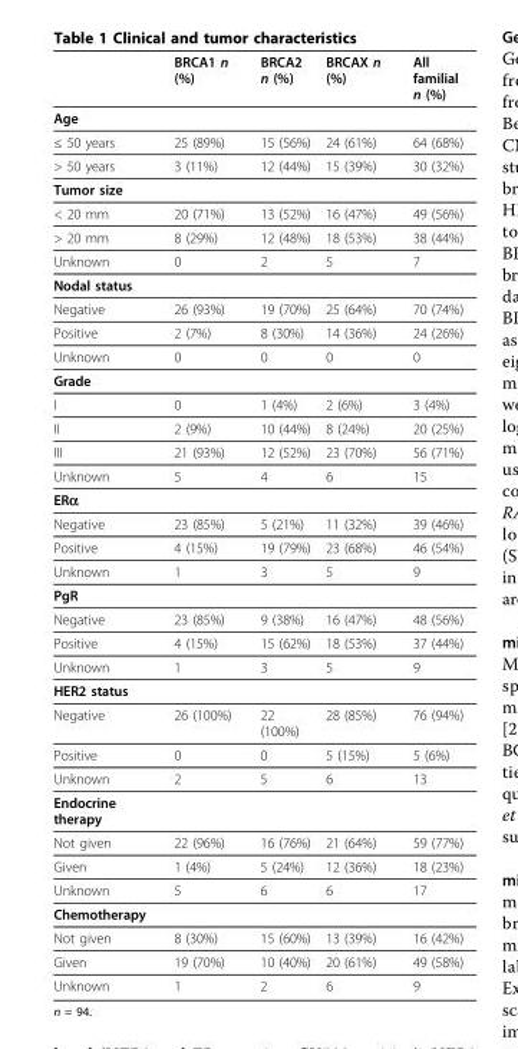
<table><thead><tr><td></td><td>BRCA1 n (%)</td><td>BRCA2 n (%)</td><td>BRCAX n (%)</td><td>All familial n (%)</td></tr></thead><tbody><tr><td colspan="5">Age</td></tr><tr><td>≤ 50 years</td><td>25 (89%)</td><td>15 (56%)</td><td>24 (61%)</td><td>64 (68%)</td></tr><tr><td>&gt; 50 years</td><td>3 (11%)</td><td>12 (44%)</td><td>15 (39%)</td><td>30 (32%)</td></tr><tr><td colspan="5">Tumor size</td></tr><tr><td>&lt; 20 mm</td><td>20 (71%)</td><td>13 (52%)</td><td>16 (47%)</td><td>49 (56%)</td></tr><tr><td>&gt; 20 mm</td><td>8 (29%)</td><td>12 (48%)</td><td>18 (53%)</td><td>38 (44%)</td></tr><tr><td>Unknown</td><td>0</td><td>2</td><td>5</td><td>7</td></tr><tr><td colspan="5">Nodal status</td></tr><tr><td>Negative</td><td>26 (93%)</td><td>19 (70%)</td><td>25 (64%)</td><td>70 (74%)</td></tr><tr><td>Positive</td><td>2 (7%)</td><td>8 (30%)</td><td>14 (36%)</td><td>24 (26%)</td></tr><tr><td>Unknown</td><td>0</td><td>0</td><td>0</td><td>0</td></tr><tr><td colspan="5">Grade</td></tr><tr><td>I</td><td>0</td><td>1 (4%)</td><td>2 (6%)</td><td>3 (4%)</td></tr><tr><td>II</td><td>2 (9%)</td><td>10 (44%)</td><td>8 (24%)</td><td>20 (25%)</td></tr><tr><td>III</td><td>21 (93%)</td><td>12 (52%)</td><td>23 (70%)</td><td>56 (71%)</td></tr><tr><td>Unknown</td><td>5</td><td>4</td><td>6</td><td>15</td></tr><tr><td colspan="5">ERα</td></tr><tr><td>Negative</td><td>23 (85%)</td><td>5 (21%)</td><td>11 (32%)</td><td>39 (46%)</td></tr><tr><td>Positive</td><td>4 (15%)</td><td>19 (79%)</td><td>23 (68%)</td><td>46 (54%)</td></tr><tr><td>Unknown</td><td>1</td><td>3</td><td>5</td><td>9</td></tr><tr><td colspan="5">PgR</td></tr><tr><td>Negative</td><td>23 (85%)</td><td>9 (38%)</td><td>16 (47%)</td><td>48 (56%)</td></tr><tr><td>Positive</td><td>4 (15%)</td><td>15 (62%)</td><td>18 (53%)</td><td>37 (44%)</td></tr><tr><td>Unknown</td><td>1</td><td>3</td><td>5</td><td>9</td></tr><tr><td colspan="5">HER2 status</td></tr><tr><td>Negative</td><td>26 (100%)</td><td>22 (100%)</td><td>28 (85%)</td><td>76 (94%)</td></tr><tr><td>Positive</td><td>0</td><td>0</td><td>5 (15%)</td><td>5 (6%)</td></tr><tr><td>Unknown</td><td>2</td><td>5</td><td>6</td><td>13</td></tr><tr><td colspan="5">Endocrine therapy</td></tr><tr><td>Not given</td><td>22 (96%)</td><td>16 (76%)</td><td>21 (64%)</td><td>59 (77%)</td></tr><tr><td>Given</td><td>1 (4%)</td><td>5 (24%)</td><td>12 (36%)</td><td>18 (23%)</td></tr><tr><td>Unknown</td><td>5</td><td>6</td><td>6</td><td>17</td></tr><tr><td colspan="5">Chemotherapy</td></tr><tr><td>Not given</td><td>8 (30%)</td><td>15 (60%)</td><td>13 (39%)</td><td>16 (42%)</td></tr><tr><td>Given</td><td>19 (70%)</td><td>10 (40%)</td><td>20 (61%)</td><td>49 (58%)</td></tr><tr><td>Unknown</td><td>1</td><td>2</td><td>6</td><td>9</td></tr></tbody></table>